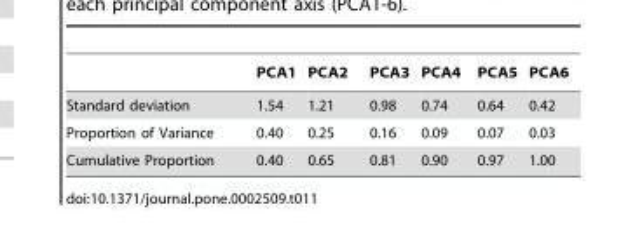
<table><thead><tr><td></td><td>PCA1</td><td>PCA2</td><td>PCA3</td><td>PCA4</td><td>PCA5</td><td>PCA6</td></tr></thead><tbody><tr><td>Standard deviation</td><td>1.54</td><td>1.21</td><td>0.98</td><td>0.74</td><td>0.64</td><td>0.42</td></tr><tr><td>Proportion of Variance</td><td>0.40</td><td>0.25</td><td>0.16</td><td>0.09</td><td>0.07</td><td>0.03</td></tr><tr><td>Cumulative Proportion</td><td>0.40</td><td>0.65</td><td>0.81</td><td>0.90</td><td>0.97</td><td>1.00</td></tr></tbody></table>